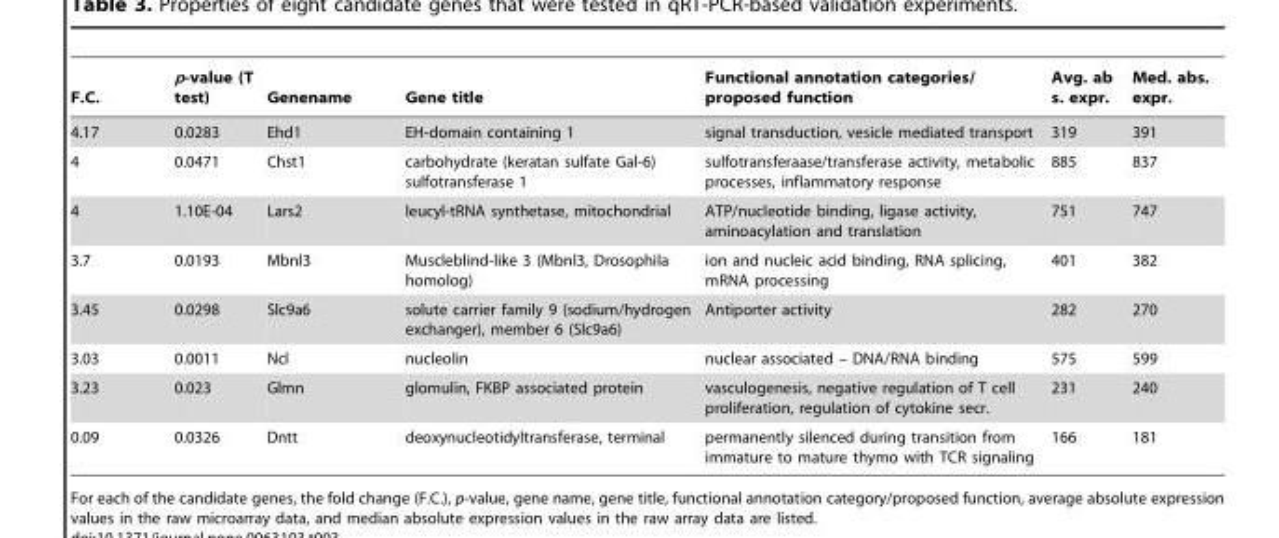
<table><thead><tr><td>F.C.</td><td>p-value (T test)</td><td>Genename</td><td>Gene title</td><td>Functional annotation categories/ proposed function</td><td>Avg. ab s. expr.</td><td>Med. abs. expr.</td></tr></thead><tbody><tr><td>4.17</td><td>0.0283</td><td>Ehd1</td><td>EH-domain containing 1</td><td>signal transduction, vesicle mediated transport</td><td>319</td><td>391</td></tr><tr><td>4</td><td>0.0471</td><td>Chst1</td><td>carbohydrate (keratan sulfate Gal-6) sulfotransferase 1</td><td>sulfotransferaase/transferase activity, metabolic processes, inflammatory response</td><td>885</td><td>837</td></tr><tr><td>4</td><td>1.10E-04</td><td>Lars2</td><td>leucyl-tRNA synthetase, mitochondrial</td><td>ATP/nucleotide binding, ligase activity, aminoacylation and translation</td><td>751</td><td>747</td></tr><tr><td>3.7</td><td>0.0193</td><td>Mbnl3</td><td>Muscleblind-like 3 (Mbnl3, Drosophila homolog)</td><td>ion and nucleic acid binding, RNA splicing, mRNA processing</td><td>401</td><td>382</td></tr><tr><td>3.45</td><td>0.0298</td><td>Slc9a6</td><td>solute carrier family 9 (sodium/hydrogen exchanger), member 6 (Slc9a6)</td><td>Antiporter activity</td><td>282</td><td>270</td></tr><tr><td>3.03</td><td>0.0011</td><td>Ncl</td><td>nucleolin</td><td>nuclear associated – DNA/RNA binding</td><td>575</td><td>599</td></tr><tr><td>3.23</td><td>0.023</td><td>Glmn</td><td>glomulin, FKBP associated protein</td><td>vasculogenesis, negative regulation of T cell proliferation, regulation of cytokine secr.</td><td>231</td><td>240</td></tr><tr><td>0.09</td><td>0.0326</td><td>Dntt</td><td>deoxynucleotidyltransferase, terminal</td><td>permanently silenced during transition from immature to mature thymo with TCR signaling</td><td>166</td><td>181</td></tr></tbody></table>